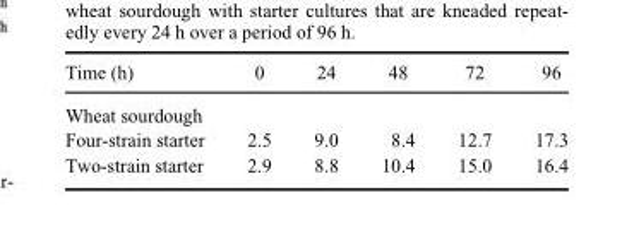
<table><thead><tr><td rowspan="2">Time (h) Wheat sourdough</td><td rowspan="2">0</td><td rowspan="2">24</td><td rowspan="2">48</td><td rowspan="2">72</td><td rowspan="2">96</td></tr><tr></tr></thead><tbody><tr><td>Four-strain starter</td><td>2.5</td><td>9.0</td><td>8.4</td><td>12.7</td><td>17.3</td></tr><tr><td>Two-strain starter</td><td>2.9</td><td>8.8</td><td>10.4</td><td>15.0</td><td>16.4</td></tr></tbody></table>